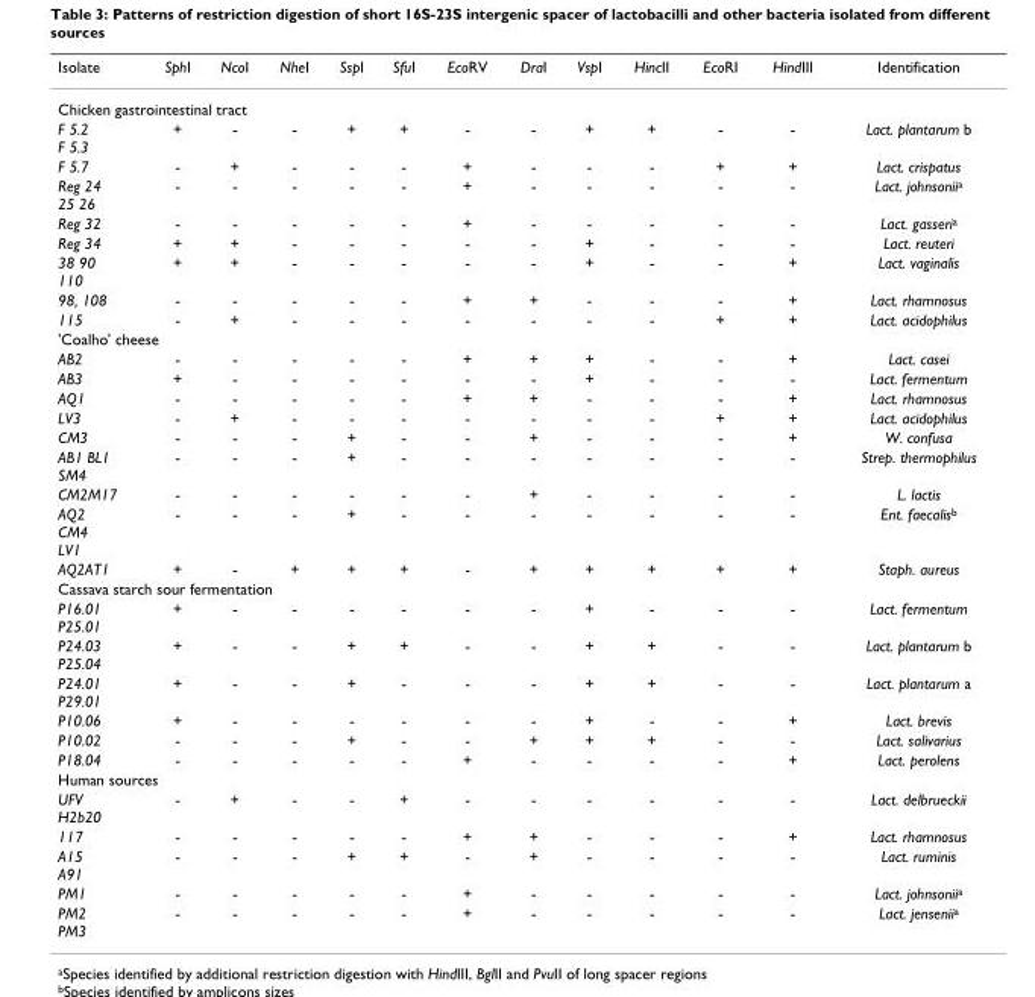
<table><thead><tr><td>Isolate</td><td>SphI</td><td>NcoI</td><td>NheI</td><td>SspI</td><td>SfuI</td><td>EcoRV</td><td>DraI</td><td>VspI</td><td>HincII</td><td>EcoRI</td><td>HindIII</td><td>Identification</td></tr></thead><tbody><tr><td colspan="13">Chicken gastrointestinal tract</td></tr><tr><td>F 5.2 F 5.3</td><td>+</td><td>-</td><td>-</td><td>+</td><td>+</td><td>-</td><td>-</td><td>+</td><td>+</td><td>-</td><td>-</td><td>Lact. plantarum b</td></tr><tr><td>F 5.7</td><td>-</td><td>+</td><td>-</td><td>-</td><td>-</td><td>+</td><td>-</td><td>-</td><td>-</td><td>+</td><td>+</td><td>Lact. crispatus</td></tr><tr><td>Reg 24 25 26</td><td>-</td><td>-</td><td>-</td><td>-</td><td>-</td><td>+</td><td>-</td><td>-</td><td>-</td><td>-</td><td>-</td><td>Lact. johnsoniia</td></tr><tr><td>Reg 32</td><td>-</td><td>-</td><td>-</td><td>-</td><td>-</td><td>+</td><td>-</td><td>-</td><td>-</td><td>-</td><td>-</td><td>Lact. gasseria</td></tr><tr><td>Reg 34</td><td>+</td><td>+</td><td>-</td><td>-</td><td>-</td><td>-</td><td>-</td><td>+</td><td>-</td><td>-</td><td>-</td><td>Lact. reuteri</td></tr><tr><td>38 90 110</td><td>+</td><td>+</td><td>-</td><td>-</td><td>-</td><td>-</td><td>-</td><td>+</td><td>-</td><td>-</td><td>+</td><td>Lact. vaginalis</td></tr><tr><td>98, 108</td><td>-</td><td>-</td><td>-</td><td>-</td><td>-</td><td>+</td><td>+</td><td>-</td><td>-</td><td>-</td><td>+</td><td>Lact. rhamnosus</td></tr><tr><td>115</td><td>-</td><td>+</td><td>-</td><td>-</td><td>-</td><td>-</td><td>-</td><td>-</td><td>-</td><td>+</td><td>+</td><td>Lact. acidophilus</td></tr><tr><td colspan="13">&#x27;Coalho&#x27; cheese</td></tr><tr><td>AB2</td><td>-</td><td>-</td><td>-</td><td>-</td><td>-</td><td>+</td><td>+</td><td>+</td><td>-</td><td>-</td><td>+</td><td>Lact. casei</td></tr><tr><td>AB3</td><td>+</td><td>-</td><td>-</td><td>-</td><td>-</td><td>-</td><td>-</td><td>+</td><td>-</td><td>-</td><td>-</td><td>Lact. fermentum</td></tr><tr><td>AQ1</td><td>-</td><td>-</td><td>-</td><td>-</td><td>-</td><td>+</td><td>+</td><td>-</td><td>-</td><td>-</td><td>+</td><td>Lact. rhamnosus</td></tr><tr><td>LV3</td><td>-</td><td>+</td><td>-</td><td>-</td><td>-</td><td>-</td><td>-</td><td>-</td><td>-</td><td>+</td><td>+</td><td>Lact. acidophilus</td></tr><tr><td>CM3</td><td>-</td><td>-</td><td>-</td><td>+</td><td>-</td><td>-</td><td>+</td><td>-</td><td>-</td><td>-</td><td>+</td><td>W. confusa</td></tr><tr><td>AB1 BL1 SM4</td><td>-</td><td>-</td><td>-</td><td>+</td><td>-</td><td>-</td><td>-</td><td>-</td><td>-</td><td>-</td><td>-</td><td>Strep. thermophilus</td></tr><tr><td>CM2M17</td><td>-</td><td>-</td><td>-</td><td>-</td><td>-</td><td>-</td><td>+</td><td>-</td><td>-</td><td>-</td><td>-</td><td>L. lactis</td></tr><tr><td>AQ2 CM4 LV1</td><td>-</td><td>-</td><td>-</td><td>+</td><td>-</td><td>-</td><td>-</td><td>-</td><td>-</td><td>-</td><td>-</td><td>Ent. faecalisb</td></tr><tr><td>AQ2AT1</td><td>+</td><td>-</td><td>+</td><td>+</td><td>+</td><td>-</td><td>+</td><td>+</td><td>+</td><td>+</td><td>+</td><td>Staph. aureus</td></tr><tr><td colspan="13">Cassava starch sour fermentation</td></tr><tr><td>P16.01 P25.01</td><td>+</td><td>-</td><td>-</td><td>-</td><td>-</td><td>-</td><td>-</td><td>+</td><td>-</td><td>-</td><td>-</td><td>Lact. fermentum</td></tr><tr><td>P24.03 P25.04</td><td>+</td><td>-</td><td>-</td><td>+</td><td>+</td><td>-</td><td>-</td><td>+</td><td>+</td><td>-</td><td>-</td><td>Lact. plantarum b</td></tr><tr><td>P24.01 P29.01</td><td>+</td><td>-</td><td>-</td><td>+</td><td>-</td><td>-</td><td>-</td><td>+</td><td>+</td><td>-</td><td>-</td><td>Lact. plantarum a</td></tr><tr><td>P10.06</td><td>+</td><td>-</td><td>-</td><td>-</td><td>-</td><td>-</td><td>-</td><td>+</td><td>-</td><td>-</td><td>+</td><td>Lact. brevis</td></tr><tr><td>P10.02</td><td>-</td><td>-</td><td>-</td><td>+</td><td>-</td><td>-</td><td>+</td><td>+</td><td>+</td><td>-</td><td>-</td><td>Lact. salivarius</td></tr><tr><td>P18.04</td><td>-</td><td>-</td><td>-</td><td>-</td><td>-</td><td>+</td><td>-</td><td>-</td><td>-</td><td>-</td><td>+</td><td>Lact. perolens</td></tr><tr><td colspan="13">Human sources</td></tr><tr><td>UFV H2b20</td><td>-</td><td>+</td><td>-</td><td>-</td><td>+</td><td>-</td><td>-</td><td>-</td><td>-</td><td>-</td><td>-</td><td>Lact. delbrueckii</td></tr><tr><td>117</td><td>-</td><td>-</td><td>-</td><td>-</td><td>-</td><td>+</td><td>+</td><td>-</td><td>-</td><td>-</td><td>+</td><td>Lact. rhamnosus</td></tr><tr><td>A15 A91</td><td>-</td><td>-</td><td>-</td><td>+</td><td>+</td><td>-</td><td>+</td><td>-</td><td>-</td><td>-</td><td>-</td><td>Lact. ruminis</td></tr><tr><td>PM1</td><td>-</td><td>-</td><td>-</td><td>-</td><td>-</td><td>+</td><td>-</td><td>-</td><td>-</td><td>-</td><td>-</td><td>Lact. johnsoniia</td></tr><tr><td>PM2 PM3</td><td>-</td><td>-</td><td>-</td><td>-</td><td>-</td><td>+</td><td>-</td><td>-</td><td>-</td><td>-</td><td>-</td><td>Lact. jenseniia</td></tr></tbody></table>